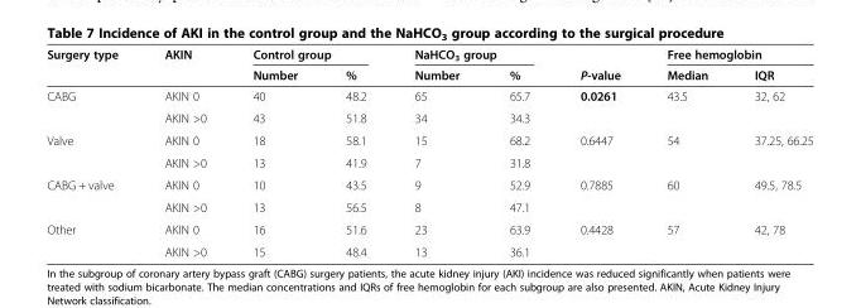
<table><thead><tr><td rowspan="2">Surgery type</td><td rowspan="2">AKIN</td><td colspan="2">Control group</td><td colspan="2">NaHCO<sub>3</sub> group</td><td rowspan="2">P-value</td><td colspan="2">Free hemoglobin</td></tr><tr><td>Number</td><td>%</td><td>Number</td><td>%</td><td>Median</td><td>IQR</td></tr></thead><tbody><tr><td rowspan="2">CABG</td><td>AKIN 0</td><td>40</td><td>48.2</td><td>65</td><td>65.7</td><td rowspan="2">0.0261</td><td rowspan="2">43.5</td><td rowspan="2">32, 62</td></tr><tr><td>AKIN &gt;0</td><td>43</td><td>51.8</td><td>34</td><td>34.3</td></tr><tr><td rowspan="2">Valve</td><td>AKIN 0</td><td>18</td><td>58.1</td><td>15</td><td>68.2</td><td rowspan="2">0.6447</td><td rowspan="2">54</td><td rowspan="2">37.25, 66.25</td></tr><tr><td>AKIN &gt;0</td><td>13</td><td>41.9</td><td>7</td><td>31.8</td></tr><tr><td rowspan="2">CABG + valve</td><td>AKIN 0</td><td>10</td><td>43.5</td><td>9</td><td>52.9</td><td rowspan="2">0.7885</td><td rowspan="2">60</td><td rowspan="2">49.5, 78.5</td></tr><tr><td>AKIN &gt;0</td><td>13</td><td>56.5</td><td>8</td><td>47.1</td></tr><tr><td rowspan="2">Other</td><td>AKIN 0</td><td>16</td><td>51.6</td><td>23</td><td>63.9</td><td rowspan="2">0.4428</td><td rowspan="2">57</td><td rowspan="2">42, 78</td></tr><tr><td>AKIN &gt;0</td><td>15</td><td>48.4</td><td>13</td><td>36.1</td></tr></tbody></table>